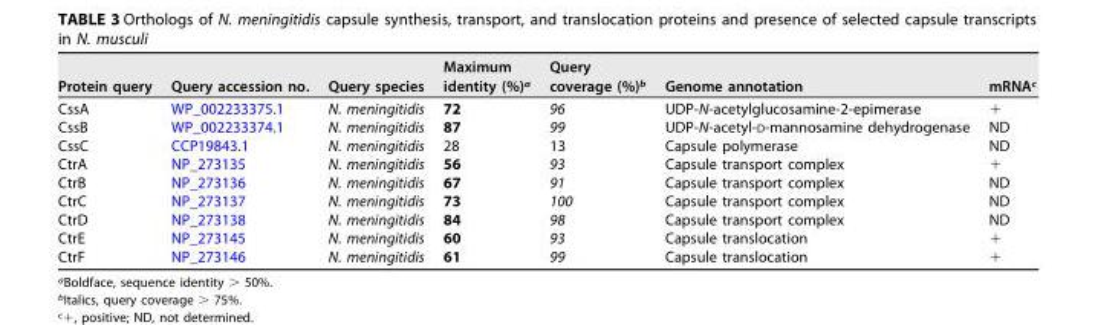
<table><thead><tr><td>Protein query</td><td>Query accession no.</td><td>Query species</td><td>Maximum identity (%)<sup>a</sup></td><td>Query coverage (%)<sup>b</sup></td><td>Genome annotation</td><td>mRNA<sup>c</sup></td></tr></thead><tbody><tr><td>CssA</td><td>WP_002233375.1</td><td>N. meningitidis</td><td>72</td><td>96</td><td>UDP-N-acetylglucosamine-2-epimerase</td><td>+</td></tr><tr><td>CssB</td><td>WP_002233374.1</td><td>N. meningitidis</td><td>87</td><td>99</td><td>UDP-N-acetyl-D-mannosamine dehydrogenase</td><td>ND</td></tr><tr><td>CssC</td><td>CCP19843.1</td><td>N. meningitidis</td><td>28</td><td>13</td><td>Capsule polymerase</td><td>ND</td></tr><tr><td>CtrA</td><td>NP_273135</td><td>N. meningitidis</td><td>56</td><td>93</td><td>Capsule transport complex</td><td>+</td></tr><tr><td>CtrB</td><td>NP_273136</td><td>N. meningitidis</td><td>67</td><td>91</td><td>Capsule transport complex</td><td>ND</td></tr><tr><td>CtrC</td><td>NP_273137</td><td>N. meningitidis</td><td>73</td><td>100</td><td>Capsule transport complex</td><td>ND</td></tr><tr><td>CtrD</td><td>NP_273138</td><td>N. meningitidis</td><td>84</td><td>98</td><td>Capsule transport complex</td><td>ND</td></tr><tr><td>CtrE</td><td>NP_273145</td><td>N. meningitidis</td><td>60</td><td>93</td><td>Capsule translocation</td><td>+</td></tr><tr><td>CtrF</td><td>NP_273146</td><td>N. meningitidis</td><td>61</td><td>99</td><td>Capsule translocation</td><td>+</td></tr></tbody></table>